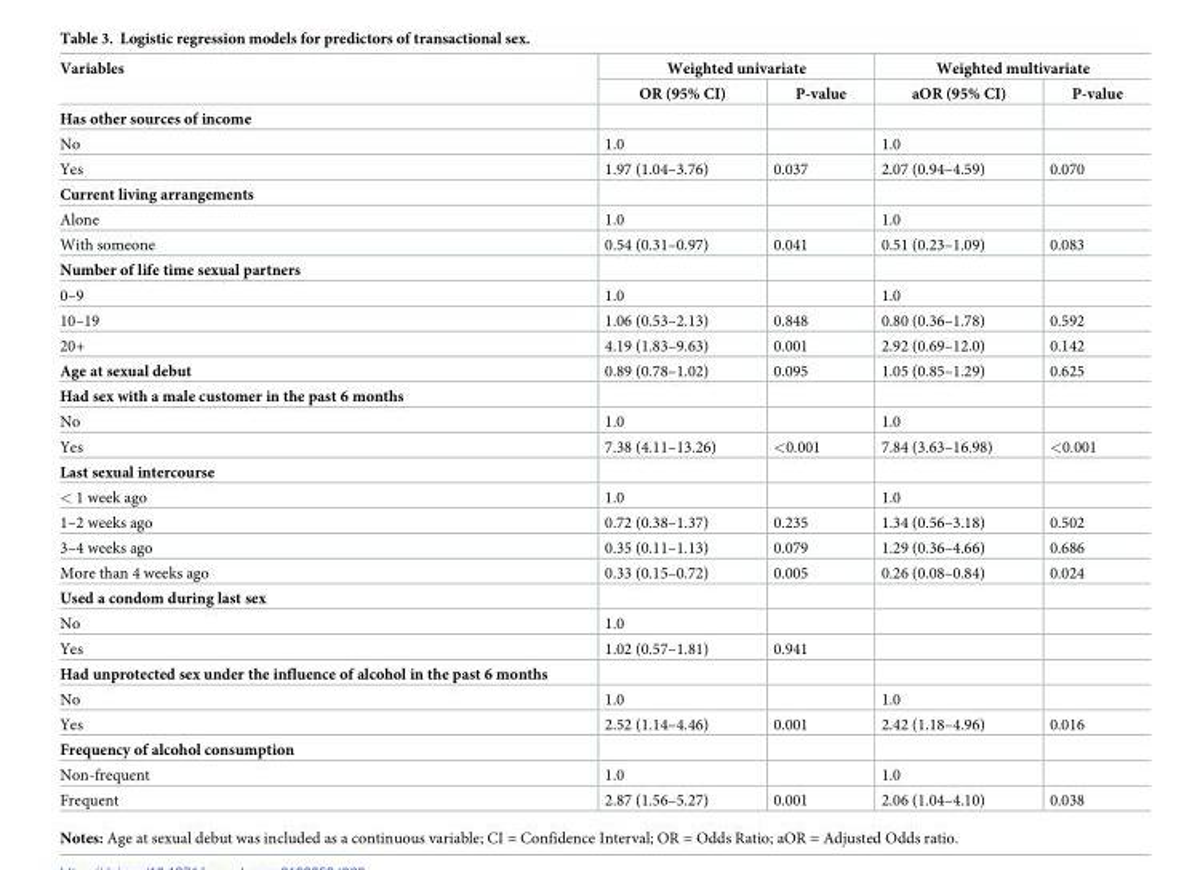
<table><thead><tr><td rowspan="2">Variables</td><td colspan="2">Weighted univariate</td><td colspan="2">Weighted multivariate</td></tr><tr><td>OR (95% CI)</td><td>P-value</td><td>aOR (95% CI)</td><td>P-value</td></tr></thead><tbody><tr><td colspan="5">Has other sources of income</td></tr><tr><td>No</td><td>1.0</td><td></td><td>1.0</td><td></td></tr><tr><td>Yes</td><td>1.97 (1.04–3.76)</td><td>0.037</td><td>2.07 (0.94–4.59)</td><td>0.070</td></tr><tr><td colspan="5">Current living arrangements</td></tr><tr><td>Alone</td><td>1.0</td><td></td><td>1.0</td><td></td></tr><tr><td>With someone</td><td>0.54 (0.31–0.97)</td><td>0.041</td><td>0.51 (0.23–1.09)</td><td>0.083</td></tr><tr><td colspan="5">Number of life time sexual partners</td></tr><tr><td>0–9</td><td>1.0</td><td></td><td>1.0</td><td></td></tr><tr><td>10–19</td><td>1.06 (0.53–2.13)</td><td>0.848</td><td>0.80 (0.36–1.78)</td><td>0.592</td></tr><tr><td>20+</td><td>4.19 (1.83–9.63)</td><td>0.001</td><td>2.92 (0.69–12.0)</td><td>0.142</td></tr><tr><td>Age at sexual debut</td><td>0.89 (0.78–1.02)</td><td>0.095</td><td>1.05 (0.85–1.29)</td><td>0.625</td></tr><tr><td colspan="5">Had sex with a male customer in the past 6 months</td></tr><tr><td>No</td><td>1.0</td><td></td><td>1.0</td><td></td></tr><tr><td>Yes</td><td>7.38 (4.11–13.26)</td><td>&lt;0.001</td><td>7.84 (3.63–16.98)</td><td>&lt;0.001</td></tr><tr><td colspan="5">Last sexual intercourse</td></tr><tr><td>&lt; 1 week ago</td><td>1.0</td><td></td><td>1.0</td><td></td></tr><tr><td>1–2 weeks ago</td><td>0.72 (0.38–1.37)</td><td>0.235</td><td>1.34 (0.56–3.18)</td><td>0.502</td></tr><tr><td>3–4 weeks ago</td><td>0.35 (0.11–1.13)</td><td>0.079</td><td>1.29 (0.36–4.66)</td><td>0.686</td></tr><tr><td>More than 4 weeks ago</td><td>0.33 (0.15–0.72)</td><td>0.005</td><td>0.26 (0.08–0.84)</td><td>0.024</td></tr><tr><td colspan="5">Used a condom during last sex</td></tr><tr><td>No</td><td>1.0</td><td></td><td></td><td></td></tr><tr><td>Yes</td><td>1.02 (0.57–1.81)</td><td>0.941</td><td></td><td></td></tr><tr><td colspan="5">Had unprotected sex under the influence of alcohol in the past 6 months</td></tr><tr><td>No</td><td>1.0</td><td></td><td>1.0</td><td></td></tr><tr><td>Yes</td><td>2.52 (1.14–4.46)</td><td>0.001</td><td>2.42 (1.18–4.96)</td><td>0.016</td></tr><tr><td colspan="5">Frequency of alcohol consumption</td></tr><tr><td>Non-frequent</td><td>1.0</td><td></td><td>1.0</td><td></td></tr><tr><td>Frequent</td><td>2.87 (1.56–5.27)</td><td>0.001</td><td>2.06 (1.04–4.10)</td><td>0.038</td></tr></tbody></table>